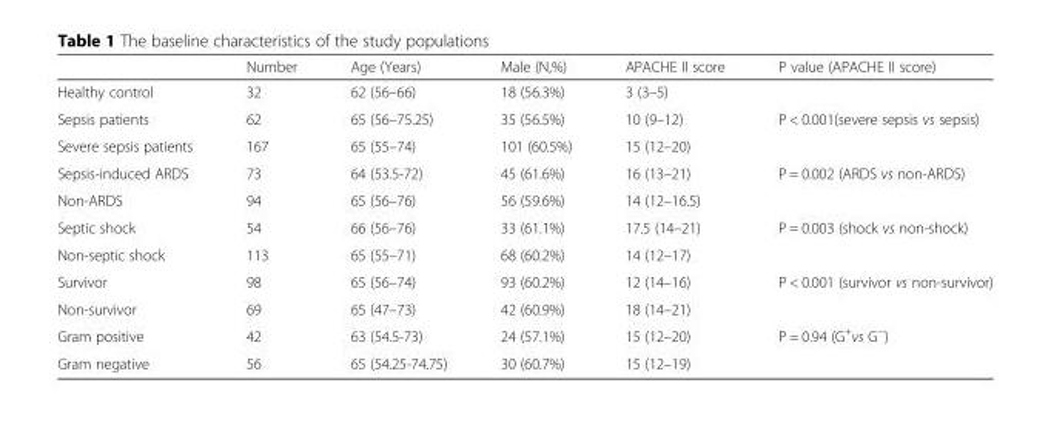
<table><thead><tr><td></td><td>Number</td><td>Age (Years)</td><td>Male (N,%)</td><td>APACHE II score</td><td>P value (APACHE II score)</td></tr></thead><tbody><tr><td>Healthy control</td><td>32</td><td>62 (56–66)</td><td>18 (56.3%)</td><td>3 (3–5)</td><td></td></tr><tr><td>Sepsis patients</td><td>62</td><td>65 (56–75.25)</td><td>35 (56.5%)</td><td>10 (9–12)</td><td>P &lt; 0.001(severe sepsis vs sepsis)</td></tr><tr><td>Severe sepsis patients</td><td>167</td><td>65 (55–74)</td><td>101 (60.5%)</td><td>15 (12–20)</td><td></td></tr><tr><td>Sepsis-induced ARDS</td><td>73</td><td>64 (53.5-72)</td><td>45 (61.6%)</td><td>16 (13–21)</td><td>P = 0.002 (ARDS vs non-ARDS)</td></tr><tr><td>Non-ARDS</td><td>94</td><td>65 (56–76)</td><td>56 (59.6%)</td><td>14 (12–16.5)</td><td></td></tr><tr><td>Septic shock</td><td>54</td><td>66 (56–76)</td><td>33 (61.1%)</td><td>17.5 (14–21)</td><td>P = 0.003 (shock vs non-shock)</td></tr><tr><td>Non-septic shock</td><td>113</td><td>65 (55–71)</td><td>68 (60.2%)</td><td>14 (12–17)</td><td></td></tr><tr><td>Survivor</td><td>98</td><td>65 (56–74)</td><td>93 (60.2%)</td><td>12 (14–16)</td><td>P &lt; 0.001 (survivor vs non-survivor)</td></tr><tr><td>Non-survivor</td><td>69</td><td>65 (47–73)</td><td>42 (60.9%)</td><td>18 (14–21)</td><td></td></tr><tr><td>Gram positive</td><td>42</td><td>63 (54.5-73)</td><td>24 (57.1%)</td><td>15 (12–20)</td><td>P = 0.94 (G<sup>+</sup>vs G<sup>−</sup>)</td></tr><tr><td>Gram negative</td><td>56</td><td>65 (54.25-74.75)</td><td>30 (60.7%)</td><td>15 (12–19)</td><td></td></tr></tbody></table>